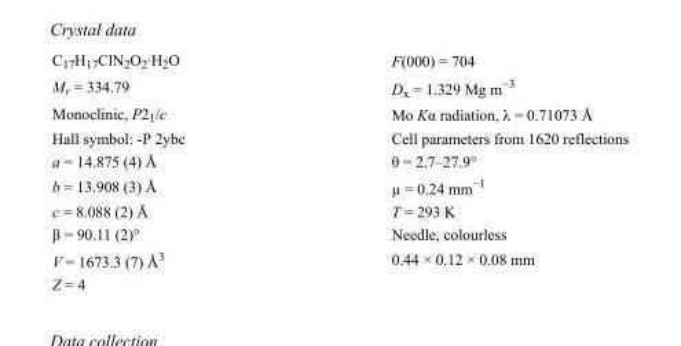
<table><tbody><tr><td>C<sub>17</sub>H<sub>17</sub>ClN<sub>2</sub>O<sub>2</sub>·H<sub>2</sub>O</td><td>F(000) = 704</td></tr><tr><td>M<sub>r</sub> = 334.79</td><td>D<sub>x</sub> = 1.329 Mg m<sup>−3</sup></td></tr><tr><td>Monoclinic, P2<sub>1</sub>/c</td><td>Mo Kα radiation, λ = 0.71073 Å</td></tr><tr><td>Hall symbol: -P 2ybc</td><td>Cell parameters from 1620 reflections</td></tr><tr><td>a = 14.875 (4) Å</td><td>θ = 2.7–27.9°</td></tr><tr><td>b = 13.908 (3) Å</td><td>µ = 0.24 mm<sup>−1</sup></td></tr><tr><td>c = 8.088 (2) Å</td><td>T = 293 K</td></tr><tr><td>β = 90.11 (2)°</td><td>Needle, colourless</td></tr><tr><td>V = 1673.3 (7) Å<sup>3</sup></td><td>0.44 × 0.12 × 0.08 mm</td></tr><tr><td>Z = 4</td><td></td></tr></tbody></table>